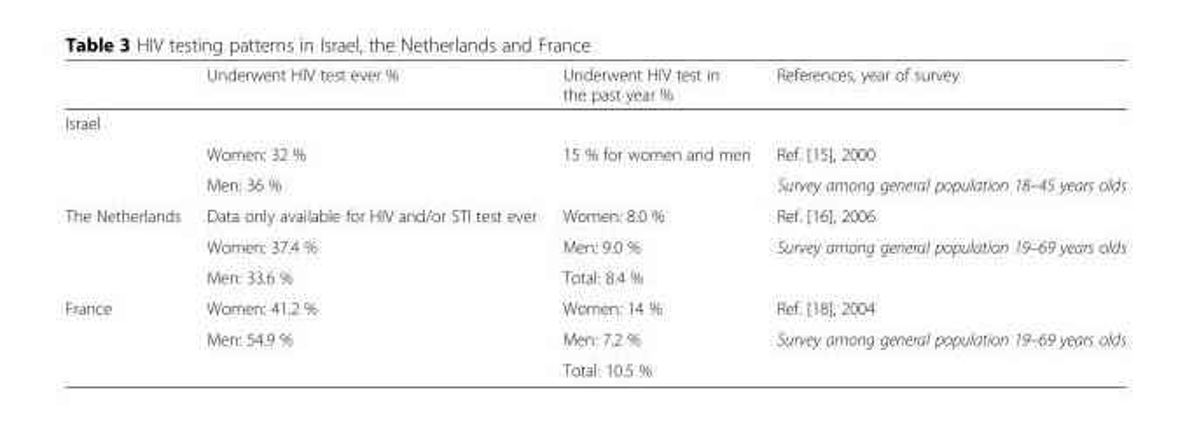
<table><thead><tr><td></td><td>Underwent HIV test ever %</td><td>Underwent HIV test in the past year %</td><td>References, year of survey</td></tr></thead><tbody><tr><td colspan="4">Israel</td></tr><tr><td rowspan="2"></td><td>Women: 32 %</td><td>15 % for women and men</td><td>Ref. [15], 2000</td></tr><tr><td>Men: 36 %</td><td></td><td>Survey among general population 18–45 years olds</td></tr><tr><td rowspan="3">The Netherlands</td><td>Data only available for HIV and/or STI test ever</td><td>Women: 8.0 %</td><td>Ref. [16], 2006</td></tr><tr><td>Women: 37.4 %</td><td>Men: 9.0 %</td><td rowspan="2">Survey among general population 19–69 years olds</td></tr><tr><td>Men: 33.6 %</td><td>Total: 8.4 %</td></tr><tr><td rowspan="3">France</td><td>Women: 41.2 %</td><td>Women: 14 %</td><td>Ref. [18], 2004</td></tr><tr><td rowspan="2">Men: 54.9 %</td><td>Men: 7.2 %</td><td rowspan="2">Survey among general population 19–69 years olds</td></tr><tr><td>Total: 10.5 %</td></tr></tbody></table>